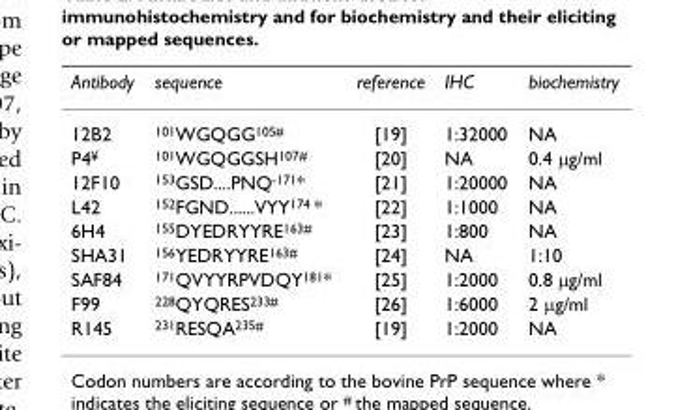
<table><thead><tr><td>Antibody</td><td>sequence</td><td>reference</td><td>IHC</td><td>biochemistry</td></tr></thead><tbody><tr><td>12B2</td><td><sup>101</sup>WGQGG<sup>105#</sup></td><td>[19]</td><td>1:32000</td><td>NA</td></tr><tr><td>P4<sup>¥</sup></td><td><sup>101</sup>WGQGGSH<sup>107#</sup></td><td>[20]</td><td>NA</td><td>0.4 μg/ml</td></tr><tr><td>12F10</td><td><sup>153</sup>GSD....PNQ<sup>-171</sup>*</td><td>[21]</td><td>1:20000</td><td>NA</td></tr><tr><td>L42</td><td><sup>152</sup>FGND......VYY<sup>174</sup> *</td><td>[22]</td><td>1:1000</td><td>NA</td></tr><tr><td>6H4</td><td><sup>155</sup>DYEDRYYRE<sup>163#</sup></td><td>[23]</td><td>1:800</td><td>NA</td></tr><tr><td>SHA31</td><td><sup>156</sup>YEDRYYRE<sup>163#</sup></td><td>[24]</td><td>NA</td><td>1:10</td></tr><tr><td>SAF84</td><td><sup>171</sup>QVYYRPVDQY<sup>181</sup>*</td><td>[25]</td><td>1:2000</td><td>0.8 μg/ml</td></tr><tr><td>F99</td><td><sup>228</sup>QYQRES<sup>233#</sup></td><td>[26]</td><td>1:6000</td><td>2 μg/ml</td></tr><tr><td>R145</td><td><sup>231</sup>RESQA<sup>235#</sup></td><td>[19]</td><td>1:2000</td><td>NA</td></tr></tbody></table>